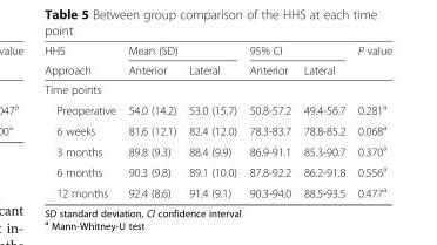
<table><thead><tr><td rowspan="2">HHS Approach</td><td colspan="2">Mean (SD)</td><td colspan="2">95% Cl</td><td rowspan="2">P value</td></tr><tr><td>Anterior</td><td>Lateral</td><td>Anterior</td><td>Lateral</td></tr></thead><tbody><tr><td colspan="6">Time points</td></tr><tr><td>Preoperative</td><td>54.0 (14.2)</td><td>53.0 (15.7)</td><td>50.8-57.2</td><td>49.4-56.7</td><td>0.281<sup>a</sup></td></tr><tr><td>6 weeks</td><td>81.6 (12.1)</td><td>82.4 (12.0)</td><td>78.3-83.7</td><td>78.8-85.2</td><td>0.068<sup>a</sup></td></tr><tr><td>3 months</td><td>89.8 (9.3)</td><td>88.4 (9.9)</td><td>86.9-91.1</td><td>85.3-90.7</td><td>0.370<sup>a</sup></td></tr><tr><td>6 months</td><td>90.3 (9.8)</td><td>89.1 (10.0)</td><td>87.8-92.2</td><td>86.2-91.8</td><td>0.556<sup>a</sup></td></tr><tr><td>12 months</td><td>92.4 (8.6)</td><td>91.4 (9.1)</td><td>90.3-94.0</td><td>88.5-93.5</td><td>0.477<sup>a</sup></td></tr></tbody></table>